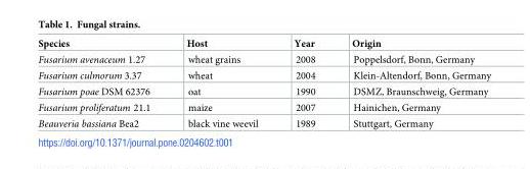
<table><thead><tr><td>Species</td><td>Host</td><td>Year</td><td>Origin</td></tr></thead><tbody><tr><td>Fusarium avenaceum 1.27</td><td>wheat grains</td><td>2008</td><td>Poppelsdorf, Bonn, Germany</td></tr><tr><td>Fusarium culmorum 3.37</td><td>wheat</td><td>2004</td><td>Klein-Altendorf, Bonn, Germany</td></tr><tr><td>Fusarium poae DSM 62376</td><td>oat</td><td>1990</td><td>DSMZ, Braunschweig, Germany</td></tr><tr><td>Fusarium proliferatum 21.1</td><td>maize</td><td>2007</td><td>Hainichen, Germany</td></tr><tr><td>Beauveria bassiana Bea2</td><td>black vine weevil</td><td>1989</td><td>Stuttgart, Germany</td></tr></tbody></table>